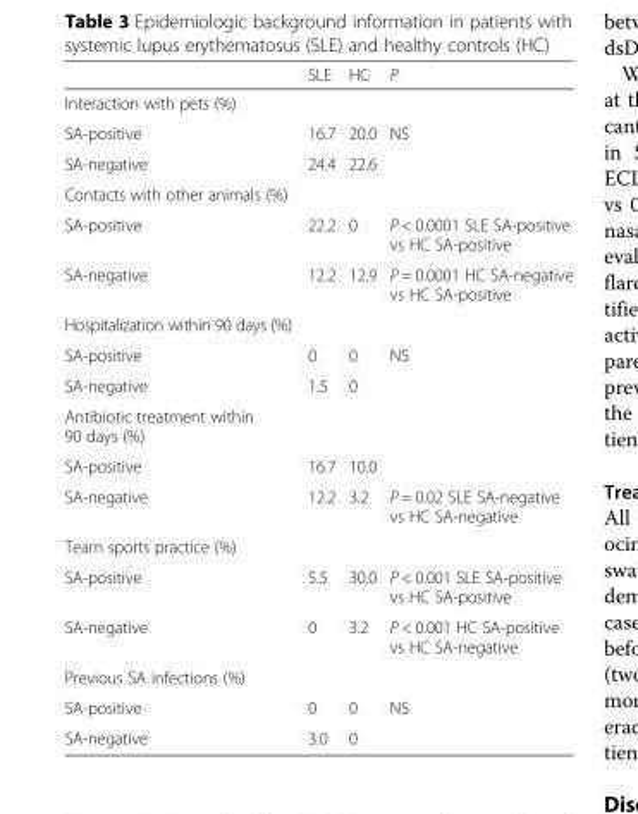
<table><thead><tr><td></td><td>SLE</td><td>HC</td><td>P</td></tr></thead><tbody><tr><td colspan="4">Interaction with pets (%)</td></tr><tr><td>SA-positive</td><td>16.7</td><td>20.0</td><td>NS</td></tr><tr><td>SA-negative</td><td>24.4</td><td>22.6</td><td></td></tr><tr><td colspan="4">Contacts with other animals (%)</td></tr><tr><td>SA-positive</td><td>22.2</td><td>0</td><td>P &lt; 0.0001 SLE SA-positive vs HC SA-positive</td></tr><tr><td>SA-negative</td><td>12.2</td><td>12.9</td><td>P = 0.0001 HC SA-negative vs HC SA-positive</td></tr><tr><td colspan="4">Hospitalization within 90 days (%)</td></tr><tr><td>SA-positive</td><td>0</td><td>0</td><td>NS</td></tr><tr><td>SA-negative</td><td>1.5</td><td>0</td><td></td></tr><tr><td colspan="4">Antibiotic treatment within 90 days (%)</td></tr><tr><td>SA-positive</td><td>16.7</td><td>10.0</td><td></td></tr><tr><td>SA-negative</td><td>12.2</td><td>3.2</td><td>P = 0.02 SLE SA-negative vs HC SA-negative</td></tr><tr><td colspan="4">Team sports practice (%)</td></tr><tr><td>SA-positive</td><td>5.5</td><td>30.0</td><td>P &lt; 0.001 SLE SA-positive vs HC SA-positive</td></tr><tr><td>SA-negative</td><td>0</td><td>3.2</td><td>P &lt; 0.001 HC SA-positive vs HC SA-negative</td></tr><tr><td colspan="4">Previous SA infections (%)</td></tr><tr><td>SA-positive</td><td>0</td><td>0</td><td>NS</td></tr><tr><td>SA-negative</td><td>3.0</td><td>0</td><td></td></tr></tbody></table>